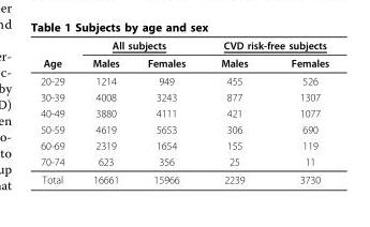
<table><thead><tr><td rowspan="2">Age</td><td colspan="2">All subjects</td><td colspan="2">CVD risk-free subjects</td></tr><tr><td>Males</td><td>Females</td><td>Males</td><td>Females</td></tr></thead><tbody><tr><td>20-29</td><td>1214</td><td>949</td><td>455</td><td>526</td></tr><tr><td>30-39</td><td>4008</td><td>3243</td><td>877</td><td>1307</td></tr><tr><td>40-49</td><td>3880</td><td>4111</td><td>421</td><td>1077</td></tr><tr><td>50-59</td><td>4619</td><td>5653</td><td>306</td><td>690</td></tr><tr><td>60-69</td><td>2319</td><td>1654</td><td>155</td><td>119</td></tr><tr><td>70-74</td><td>623</td><td>356</td><td>25</td><td>11</td></tr><tr><td>Total</td><td>16661</td><td>15966</td><td>2239</td><td>3730</td></tr></tbody></table>